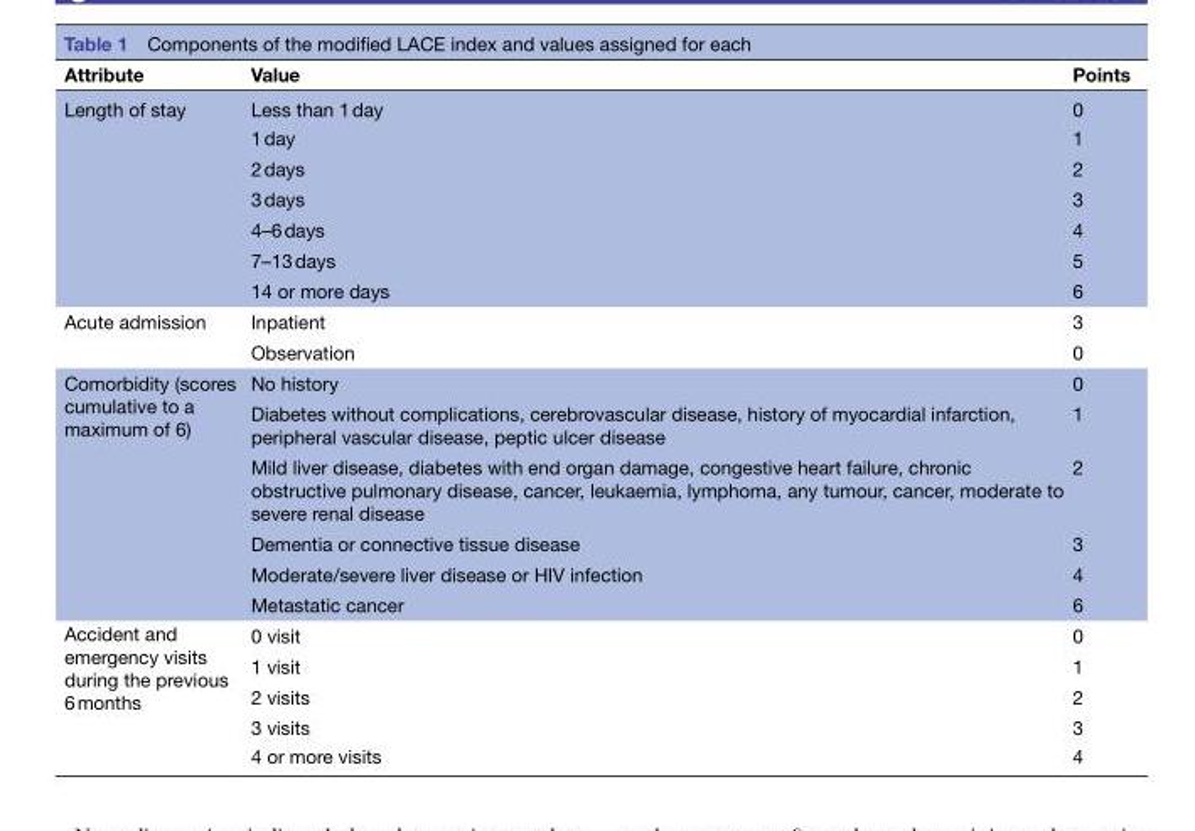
<table><thead><tr><td>Attribute</td><td>Value</td><td>Points</td></tr></thead><tbody><tr><td rowspan="7">Length of stay</td><td>Less than 1 day</td><td>0</td></tr><tr><td>1 day</td><td>1</td></tr><tr><td>2 days</td><td>2</td></tr><tr><td>3 days</td><td>3</td></tr><tr><td>4–6 days</td><td>4</td></tr><tr><td>7–13 days</td><td>5</td></tr><tr><td>14 or more days</td><td>6</td></tr><tr><td rowspan="2">Acute admission</td><td>Inpatient</td><td>3</td></tr><tr><td>Observation</td><td>0</td></tr><tr><td rowspan="6">Comorbidity (scores cumulative to a maximum of 6)</td><td>No history</td><td>0</td></tr><tr><td>Diabetes without complications, cerebrovascular disease, history of myocardial infarction, peripheral vascular disease, peptic ulcer disease</td><td>1</td></tr><tr><td>Mild liver disease, diabetes with end organ damage, congestive heart failure, chronic obstructive pulmonary disease, cancer, leukaemia, lymphoma, any tumour, cancer, moderate to severe renal disease</td><td>2</td></tr><tr><td>Dementia or connective tissue disease</td><td>3</td></tr><tr><td>Moderate/severe liver disease or HIV infection</td><td>4</td></tr><tr><td>Metastatic cancer</td><td>6</td></tr><tr><td rowspan="5">Accident and emergency visits during the previous 6 months</td><td>0 visit</td><td>0</td></tr><tr><td>1 visit</td><td>1</td></tr><tr><td>2 visits</td><td>2</td></tr><tr><td>3 visits</td><td>3</td></tr><tr><td>4 or more visits</td><td>4</td></tr></tbody></table>